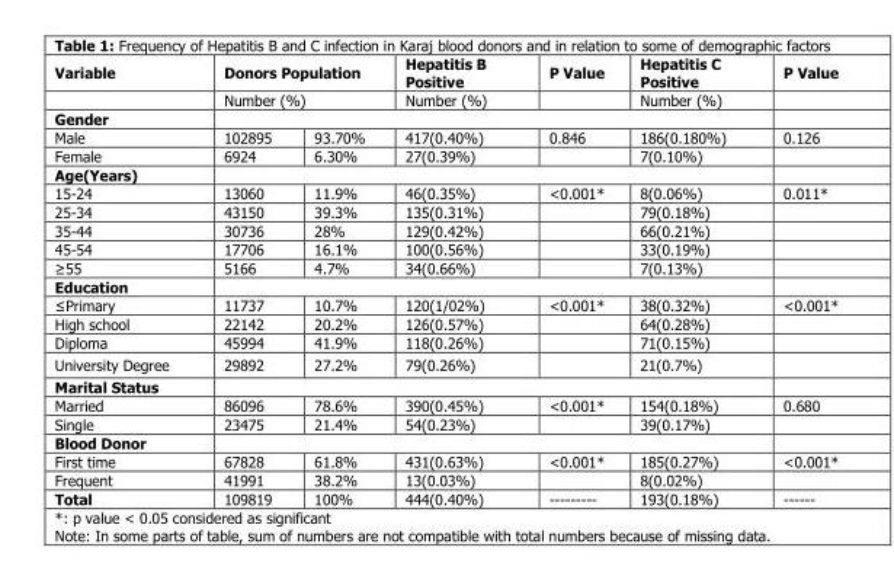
<table><thead><tr><td rowspan="4">Variable Gender Male</td><td rowspan="2" colspan="2">Donors Population Number (%)</td><td rowspan="2">Hepatitis B Positive Number (%)</td><td rowspan="2">P Value</td><td rowspan="2">Hepatitis C Positive Number (%)</td><td rowspan="4">P Value 0.126</td></tr><tr></tr><tr><td colspan="5"></td></tr><tr><td>102895</td><td>93.70%</td><td>417(0.40%)</td><td>0.846</td><td>186(0.180%)</td></tr></thead><tbody><tr><td>Female</td><td>6924</td><td>6.30%</td><td>27(0.39%)</td><td></td><td>7(0.10%)</td><td></td></tr><tr><td colspan="7">Age(Years)</td></tr><tr><td>15-24</td><td>13060</td><td>11.9%</td><td>46(0.35%)</td><td>&lt;0.001*</td><td>8(0.06%)</td><td>0.011*</td></tr><tr><td>25-34</td><td>43150</td><td>39.3%</td><td>135(0.31%)</td><td></td><td>79(0.18%)</td><td></td></tr><tr><td>35-44</td><td>30736</td><td>28%</td><td>129(0.42%)</td><td></td><td>66(0.21%)</td><td></td></tr><tr><td>45-54</td><td>17706</td><td>16.1%</td><td>100(0.56%)</td><td></td><td>33(0.19%)</td><td></td></tr><tr><td>≥55</td><td>5166</td><td>4.7%</td><td>34(0.66%)</td><td></td><td>7(0.13%)</td><td></td></tr><tr><td colspan="7">Education</td></tr><tr><td>≤Primary</td><td>11737</td><td>10.7%</td><td>120(1/02%)</td><td>&lt;0.001*</td><td>38(0.32%)</td><td>&lt;0.001*</td></tr><tr><td>High school</td><td>22142</td><td>20.2%</td><td>126(0.57%)</td><td></td><td>64(0.28%)</td><td></td></tr><tr><td>Diploma</td><td>45994</td><td>41.9%</td><td>118(0.26%)</td><td></td><td>71(0.15%)</td><td></td></tr><tr><td>University Degree</td><td>29892</td><td>27.2%</td><td>79(0.26%)</td><td></td><td>21(0.7%)</td><td></td></tr><tr><td colspan="7">Marital Status</td></tr><tr><td>Married</td><td>86096</td><td>78.6%</td><td>390(0.45%)</td><td>&lt;0.001*</td><td>154(0.18%)</td><td>0.680</td></tr><tr><td>Single</td><td>23475</td><td>21.4%</td><td>54(0.23%)</td><td></td><td>39(0.17%)</td><td></td></tr><tr><td colspan="7">Blood Donor</td></tr><tr><td>First time</td><td>67828</td><td>61.8%</td><td>431(0.63%)</td><td>&lt;0.001*</td><td>185(0.27%)</td><td>&lt;0.001*</td></tr><tr><td>Frequent</td><td>41991</td><td>38.2%</td><td>13(0.03%)</td><td></td><td>8(0.02%)</td><td></td></tr><tr><td>Total</td><td>109819</td><td>100%</td><td>444(0.40%)</td><td>---------</td><td>193(0.18%)</td><td>------</td></tr></tbody></table>